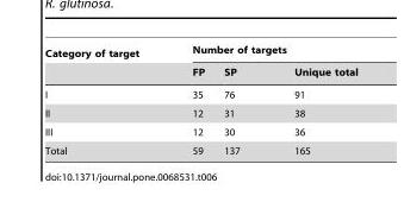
<table><thead><tr><td rowspan="2">Category of target</td><td colspan="3">Number of targets</td></tr><tr><td>FP</td><td>SP</td><td>Unique total</td></tr></thead><tbody><tr><td>I</td><td>35</td><td>76</td><td>91</td></tr><tr><td>II</td><td>12</td><td>31</td><td>38</td></tr><tr><td>III</td><td>12</td><td>30</td><td>36</td></tr><tr><td>Total</td><td>59</td><td>137</td><td>165</td></tr></tbody></table>